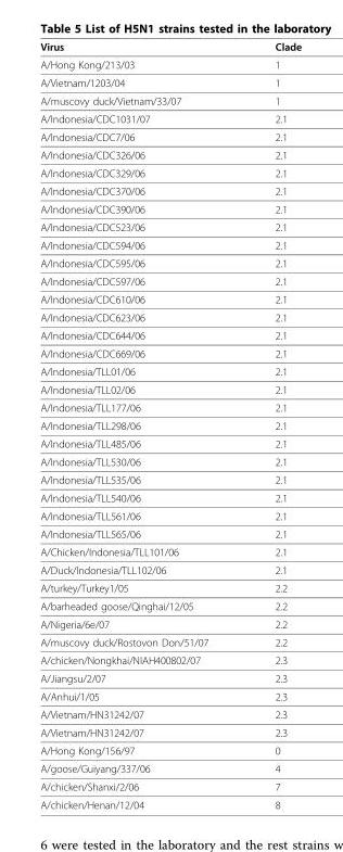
<table><thead><tr><td>Virus</td><td>Clade</td></tr></thead><tbody><tr><td>A/Hong Kong/213/03</td><td>1</td></tr><tr><td>A/Vietnam/1203/04</td><td>1</td></tr><tr><td>A/muscovy duck/Vietnam/33/07</td><td>1</td></tr><tr><td>A/Indonesia/CDC1031/07</td><td>2.1</td></tr><tr><td>A/Indonesia/CDC7/06</td><td>2.1</td></tr><tr><td>A/Indonesia/CDC326/06</td><td>2.1</td></tr><tr><td>A/Indonesia/CDC329/06</td><td>2.1</td></tr><tr><td>A/Indonesia/CDC370/06</td><td>2.1</td></tr><tr><td>A/Indonesia/CDC390/06</td><td>2.1</td></tr><tr><td>A/Indonesia/CDC523/06</td><td>2.1</td></tr><tr><td>A/Indonesia/CDC594/06</td><td>2.1</td></tr><tr><td>A/Indonesia/CDC595/06</td><td>2.1</td></tr><tr><td>A/Indonesia/CDC597/06</td><td>2.1</td></tr><tr><td>A/Indonesia/CDC610/06</td><td>2.1</td></tr><tr><td>A/Indonesia/CDC623/06</td><td>2.1</td></tr><tr><td>A/Indonesia/CDC644/06</td><td>2.1</td></tr><tr><td>A/Indonesia/CDC669/06</td><td>2.1</td></tr><tr><td>A/Indonesia/TLL01/06</td><td>2.1</td></tr><tr><td>A/Indonesia/TLL02/06</td><td>2.1</td></tr><tr><td>A/Indonesia/TLL177/06</td><td>2.1</td></tr><tr><td>A/Indonesia/TLL298/06</td><td>2.1</td></tr><tr><td>A/Indonesia/TLL485/06</td><td>2.1</td></tr><tr><td>A/Indonesia/TLL530/06</td><td>2.1</td></tr><tr><td>A/Indonesia/TLL535/06</td><td>2.1</td></tr><tr><td>A/Indonesia/TLL540/06</td><td>2.1</td></tr><tr><td>A/Indonesia/TLL561/06</td><td>2.1</td></tr><tr><td>A/Indonesia/TLL565/06</td><td>2.1</td></tr><tr><td>A/Chicken/Indonesia/TLL101/06</td><td>2.1</td></tr><tr><td>A/Duck/Indonesia/TLL102/06</td><td>2.1</td></tr><tr><td>A/turkey/Turkey1/05</td><td>2.2</td></tr><tr><td>A/barheaded goose/Qinghai/12/05</td><td>2.2</td></tr><tr><td>A/Nigeria/6e/07</td><td>2.2</td></tr><tr><td>A/muscovy duck/Rostovon Don/51/07</td><td>2.2</td></tr><tr><td>A/chicken/Nongkhai/NIAH400802/07</td><td>2.3</td></tr><tr><td>A/Jiangsu/2/07</td><td>2.3</td></tr><tr><td>A/Anhui/1/05</td><td>2.3</td></tr><tr><td>A/Vietnam/HN31242/07</td><td>2.3</td></tr><tr><td>A/Vietnam/HN31242/07</td><td>2.3</td></tr><tr><td>A/Hong Kong/156/97</td><td>0</td></tr><tr><td>A/goose/Guiyang/337/06</td><td>4</td></tr><tr><td>A/chicken/Shanxi/2/06</td><td>7</td></tr><tr><td>A/chicken/Henan/12/04</td><td>8</td></tr></tbody></table>